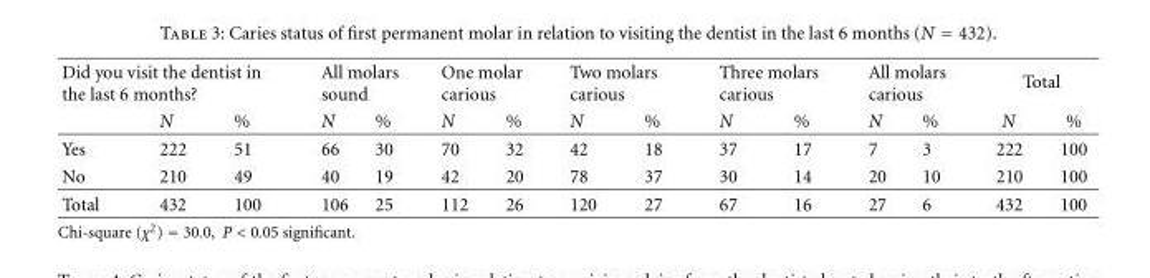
<table><thead><tr><td colspan="3">Did you visit the dentist in the last 6 months?</td><td colspan="2">All molars sound</td><td colspan="2">One molar carious</td><td colspan="2">Two molars carious</td><td colspan="2">Three molars carious</td><td colspan="2">All molars carious</td><td colspan="2">Total</td></tr><tr><td></td><td>N</td><td>%</td><td>N</td><td>%</td><td>N</td><td>%</td><td>N</td><td>%</td><td>N</td><td>%</td><td>N</td><td>%</td><td>N</td><td>%</td></tr></thead><tbody><tr><td>Yes</td><td>222</td><td>51</td><td>66</td><td>30</td><td>70</td><td>32</td><td>42</td><td>18</td><td>37</td><td>17</td><td>7</td><td>3</td><td>222</td><td>100</td></tr><tr><td>No</td><td>210</td><td>49</td><td>40</td><td>19</td><td>42</td><td>20</td><td>78</td><td>37</td><td>30</td><td>14</td><td>20</td><td>10</td><td>210</td><td>100</td></tr><tr><td>Total</td><td>432</td><td>100</td><td>106</td><td>25</td><td>112</td><td>26</td><td>120</td><td>27</td><td>67</td><td>16</td><td>27</td><td>6</td><td>432</td><td>100</td></tr></tbody></table>